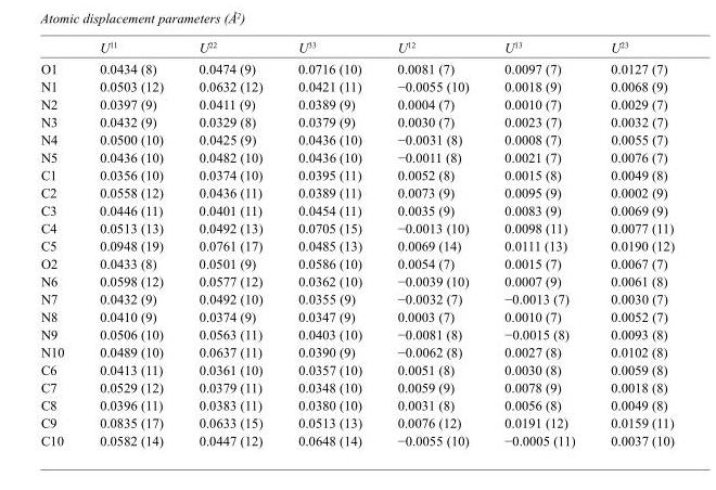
<table><thead><tr><td></td><td>U<sup>11</sup></td><td>U<sup>22</sup></td><td>U<sup>33</sup></td><td>U<sup>12</sup></td><td>U<sup>13</sup></td><td>U<sup>23</sup></td></tr></thead><tbody><tr><td>O1</td><td>0.0434 (8)</td><td>0.0474 (9)</td><td>0.0716 (10)</td><td>0.0081 (7)</td><td>0.0097 (7)</td><td>0.0127 (7)</td></tr><tr><td>N1</td><td>0.0503 (12)</td><td>0.0632 (12)</td><td>0.0421 (11)</td><td>−0.0055 (10)</td><td>0.0018 (9)</td><td>0.0068 (9)</td></tr><tr><td>N2</td><td>0.0397 (9)</td><td>0.0411 (9)</td><td>0.0389 (9)</td><td>0.0004 (7)</td><td>0.0010 (7)</td><td>0.0029 (7)</td></tr><tr><td>N3</td><td>0.0432 (9)</td><td>0.0329 (8)</td><td>0.0379 (9)</td><td>0.0030 (7)</td><td>0.0023 (7)</td><td>0.0032 (7)</td></tr><tr><td>N4</td><td>0.0500 (10)</td><td>0.0425 (9)</td><td>0.0436 (10)</td><td>−0.0031 (8)</td><td>0.0008 (7)</td><td>0.0055 (7)</td></tr><tr><td>N5</td><td>0.0436 (10)</td><td>0.0482 (10)</td><td>0.0436 (10)</td><td>−0.0011 (8)</td><td>0.0021 (7)</td><td>0.0076 (7)</td></tr><tr><td>C1</td><td>0.0356 (10)</td><td>0.0374 (10)</td><td>0.0395 (11)</td><td>0.0052 (8)</td><td>0.0015 (8)</td><td>0.0049 (8)</td></tr><tr><td>C2</td><td>0.0558 (12)</td><td>0.0436 (11)</td><td>0.0389 (11)</td><td>0.0073 (9)</td><td>0.0095 (9)</td><td>0.0002 (9)</td></tr><tr><td>C3</td><td>0.0446 (11)</td><td>0.0401 (11)</td><td>0.0454 (11)</td><td>0.0035 (9)</td><td>0.0083 (9)</td><td>0.0069 (9)</td></tr><tr><td>C4</td><td>0.0513 (13)</td><td>0.0492 (13)</td><td>0.0705 (15)</td><td>−0.0013 (10)</td><td>0.0098 (11)</td><td>0.0077 (11)</td></tr><tr><td>C5</td><td>0.0948 (19)</td><td>0.0761 (17)</td><td>0.0485 (13)</td><td>0.0069 (14)</td><td>0.0111 (13)</td><td>0.0190 (12)</td></tr><tr><td>O2</td><td>0.0433 (8)</td><td>0.0501 (9)</td><td>0.0586 (10)</td><td>0.0054 (7)</td><td>0.0015 (7)</td><td>0.0067 (7)</td></tr><tr><td>N6</td><td>0.0598 (12)</td><td>0.0577 (12)</td><td>0.0362 (10)</td><td>−0.0039 (10)</td><td>0.0007 (9)</td><td>0.0061 (8)</td></tr><tr><td>N7</td><td>0.0432 (9)</td><td>0.0492 (10)</td><td>0.0355 (9)</td><td>−0.0032 (7)</td><td>−0.0013 (7)</td><td>0.0030 (7)</td></tr><tr><td>N8</td><td>0.0410 (9)</td><td>0.0374 (9)</td><td>0.0347 (9)</td><td>0.0003 (7)</td><td>0.0010 (7)</td><td>0.0052 (7)</td></tr><tr><td>N9</td><td>0.0506 (10)</td><td>0.0563 (11)</td><td>0.0403 (10)</td><td>−0.0081 (8)</td><td>−0.0015 (8)</td><td>0.0093 (8)</td></tr><tr><td>N10</td><td>0.0489 (10)</td><td>0.0637 (11)</td><td>0.0390 (9)</td><td>−0.0062 (8)</td><td>0.0027 (8)</td><td>0.0102 (8)</td></tr><tr><td>C6</td><td>0.0413 (11)</td><td>0.0361 (10)</td><td>0.0357 (10)</td><td>0.0051 (8)</td><td>0.0030 (8)</td><td>0.0059 (8)</td></tr><tr><td>C7</td><td>0.0529 (12)</td><td>0.0379 (11)</td><td>0.0348 (10)</td><td>0.0059 (9)</td><td>0.0078 (9)</td><td>0.0018 (8)</td></tr><tr><td>C8</td><td>0.0396 (11)</td><td>0.0383 (11)</td><td>0.0380 (10)</td><td>0.0031 (8)</td><td>0.0056 (8)</td><td>0.0049 (8)</td></tr><tr><td>C9</td><td>0.0835 (17)</td><td>0.0633 (15)</td><td>0.0513 (13)</td><td>0.0076 (12)</td><td>0.0191 (12)</td><td>0.0159 (11)</td></tr><tr><td>C10</td><td>0.0582 (14)</td><td>0.0447 (12)</td><td>0.0648 (14)</td><td>−0.0055 (10)</td><td>−0.0005 (11)</td><td>0.0037 (10)</td></tr></tbody></table>